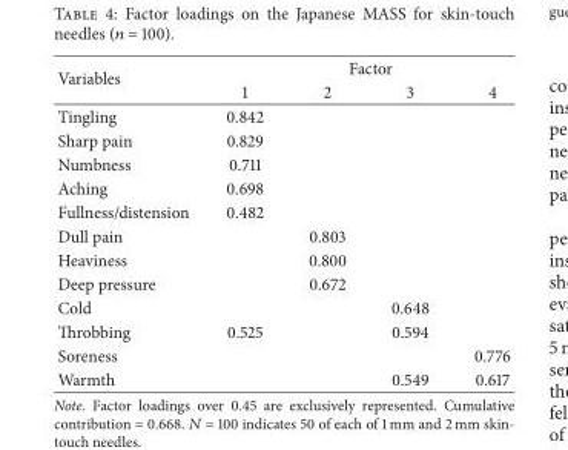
<table><thead><tr><td rowspan="2">Variables</td><td colspan="4">Factor</td></tr><tr><td>1</td><td>2</td><td>3</td><td>4</td></tr></thead><tbody><tr><td>Tingling</td><td>0.842</td><td></td><td></td><td></td></tr><tr><td>Sharp pain</td><td>0.829</td><td></td><td></td><td></td></tr><tr><td>Numbness</td><td>0.711</td><td></td><td></td><td></td></tr><tr><td>Aching</td><td>0.698</td><td></td><td></td><td></td></tr><tr><td>Fullness/distension</td><td>0.482</td><td></td><td></td><td></td></tr><tr><td>Dull pain</td><td></td><td>0.803</td><td></td><td></td></tr><tr><td>Heaviness</td><td></td><td>0.800</td><td></td><td></td></tr><tr><td>Deep pressure</td><td></td><td>0.672</td><td></td><td></td></tr><tr><td>Cold</td><td></td><td></td><td>0.648</td><td></td></tr><tr><td>Throbbing</td><td>0.525</td><td></td><td>0.594</td><td></td></tr><tr><td>Soreness</td><td></td><td></td><td></td><td>0.776</td></tr><tr><td>Warmth</td><td></td><td></td><td>0.549</td><td>0.617</td></tr></tbody></table>